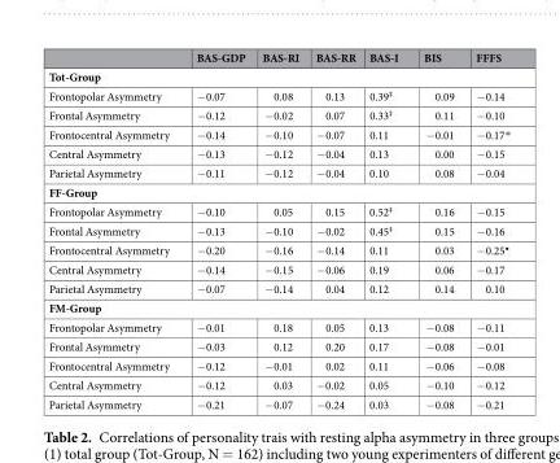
<table><thead><tr><td></td><td>BAS-GDP</td><td>BAS-RI</td><td>BAS-RR</td><td>BAS-I</td><td>BIS</td><td>FFFS</td></tr></thead><tbody><tr><td colspan="7">Tot-Group</td></tr><tr><td>Frontopolar Asymmetry</td><td>−0.07</td><td>0.08</td><td>0.13</td><td>0.39<sup>‡</sup></td><td>0.09</td><td>−0.14</td></tr><tr><td>Frontal Asymmetry</td><td>−0.12</td><td>−0.02</td><td>0.07</td><td>0.33<sup>‡</sup></td><td>0.11</td><td>−0.10</td></tr><tr><td>Frontocentral Asymmetry</td><td>−0.14</td><td>−0.10</td><td>−0.07</td><td>0.11</td><td>−0.01</td><td>−0.17*</td></tr><tr><td>Central Asymmetry</td><td>−0.13</td><td>−0.12</td><td>−0.04</td><td>0.13</td><td>0.00</td><td>−0.15</td></tr><tr><td>Parietal Asymmetry</td><td>−0.11</td><td>−0.12</td><td>−0.04</td><td>0.10</td><td>0.08</td><td>−0.04</td></tr><tr><td colspan="7">FF-Group</td></tr><tr><td>Frontopolar Asymmetry</td><td>−0.10</td><td>0.05</td><td>0.15</td><td>0.52<sup>‡</sup></td><td>0.16</td><td>−0.15</td></tr><tr><td>Frontal Asymmetry</td><td>−0.13</td><td>−0.10</td><td>−0.02</td><td>0.45<sup>‡</sup></td><td>0.15</td><td>−0.16</td></tr><tr><td>Frontocentral Asymmetry</td><td>−0.20</td><td>−0.16</td><td>−0.14</td><td>0.11</td><td>0.03</td><td>−0.25<sup>•</sup></td></tr><tr><td>Central Asymmetry</td><td>−0.14</td><td>−0.15</td><td>−0.06</td><td>0.19</td><td>0.06</td><td>−0.17</td></tr><tr><td>Parietal Asymmetry</td><td>−0.07</td><td>−0.14</td><td>0.04</td><td>0.12</td><td>0.14</td><td>0.10</td></tr><tr><td colspan="7">FM-Group</td></tr><tr><td>Frontopolar Asymmetry</td><td>−0.01</td><td>0.18</td><td>0.05</td><td>0.13</td><td>−0.08</td><td>−0.11</td></tr><tr><td>Frontal Asymmetry</td><td>−0.03</td><td>0.12</td><td>0.20</td><td>0.17</td><td>−0.08</td><td>−0.01</td></tr><tr><td>Frontocentral Asymmetry</td><td>−0.12</td><td>−0.01</td><td>0.02</td><td>0.11</td><td>−0.06</td><td>−0.08</td></tr><tr><td>Central Asymmetry</td><td>−0.12</td><td>0.03</td><td>−0.02</td><td>0.05</td><td>−0.10</td><td>−0.12</td></tr><tr><td>Parietal Asymmetry</td><td>−0.21</td><td>−0.07</td><td>−0.24</td><td>0.03</td><td>−0.08</td><td>−0.21</td></tr></tbody></table>